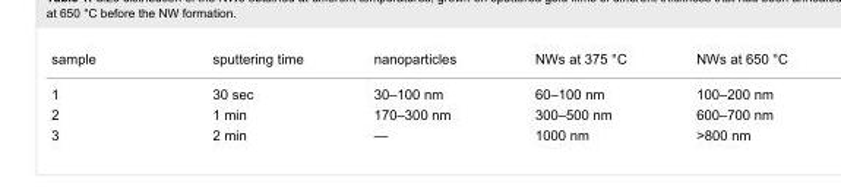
<table><tbody><tr><td>sample</td><td>sputtering time</td><td>nanoparticles</td><td>NWs at 375 °C</td><td>NWs at 650 °C</td></tr><tr><td>1</td><td>30 sec</td><td>30–100 nm</td><td>60–100 nm</td><td>100–200 nm</td></tr><tr><td>2</td><td>1 min</td><td>170–300 nm</td><td>300–500 nm</td><td>600–700 nm</td></tr><tr><td>3</td><td>2 min</td><td>—</td><td>1000 nm</td><td>&gt;800 nm</td></tr></tbody></table>